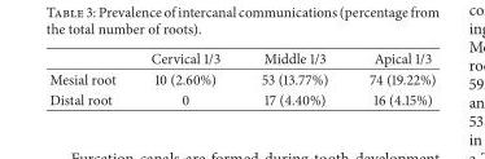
<table><thead><tr><td></td><td>Cervical 1/3</td><td>Middle 1/3</td><td>Apical 1/3</td></tr></thead><tbody><tr><td>Mesial root</td><td>10 (2.60%)</td><td>53 (13.77%)</td><td>74 (19.22%)</td></tr><tr><td>Distal root</td><td>0</td><td>17 (4.40%)</td><td>16 (4.15%)</td></tr></tbody></table>